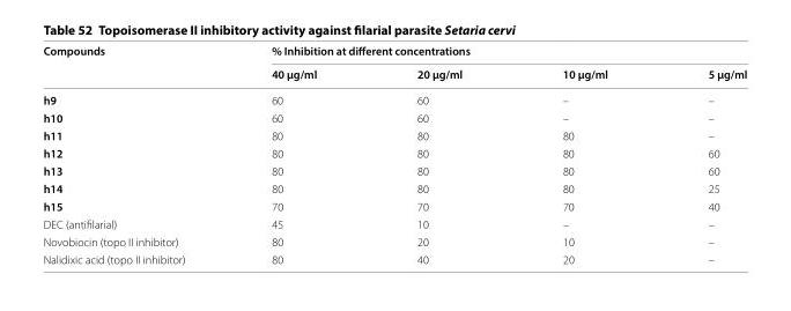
<table><thead><tr><td rowspan="2">Compounds</td><td colspan="4">% Inhibition at different concentrations</td></tr><tr><td>40 µg/ml</td><td>20 µg/ml</td><td>10 µg/ml</td><td>5 µg/ml</td></tr></thead><tbody><tr><td>h9</td><td>60</td><td>60</td><td>–</td><td>–</td></tr><tr><td>h10</td><td>60</td><td>60</td><td>–</td><td>–</td></tr><tr><td>h11</td><td>80</td><td>80</td><td>80</td><td>–</td></tr><tr><td>h12</td><td>80</td><td>80</td><td>80</td><td>60</td></tr><tr><td>h13</td><td>80</td><td>80</td><td>80</td><td>60</td></tr><tr><td>h14</td><td>80</td><td>80</td><td>80</td><td>25</td></tr><tr><td>h15</td><td>70</td><td>70</td><td>70</td><td>40</td></tr><tr><td>DEC (antifilarial)</td><td>45</td><td>10</td><td>–</td><td>–</td></tr><tr><td>Novobiocin (topo II inhibitor)</td><td>80</td><td>20</td><td>10</td><td>–</td></tr><tr><td>Nalidixic acid (topo II inhibitor)</td><td>80</td><td>40</td><td>20</td><td>–</td></tr></tbody></table>